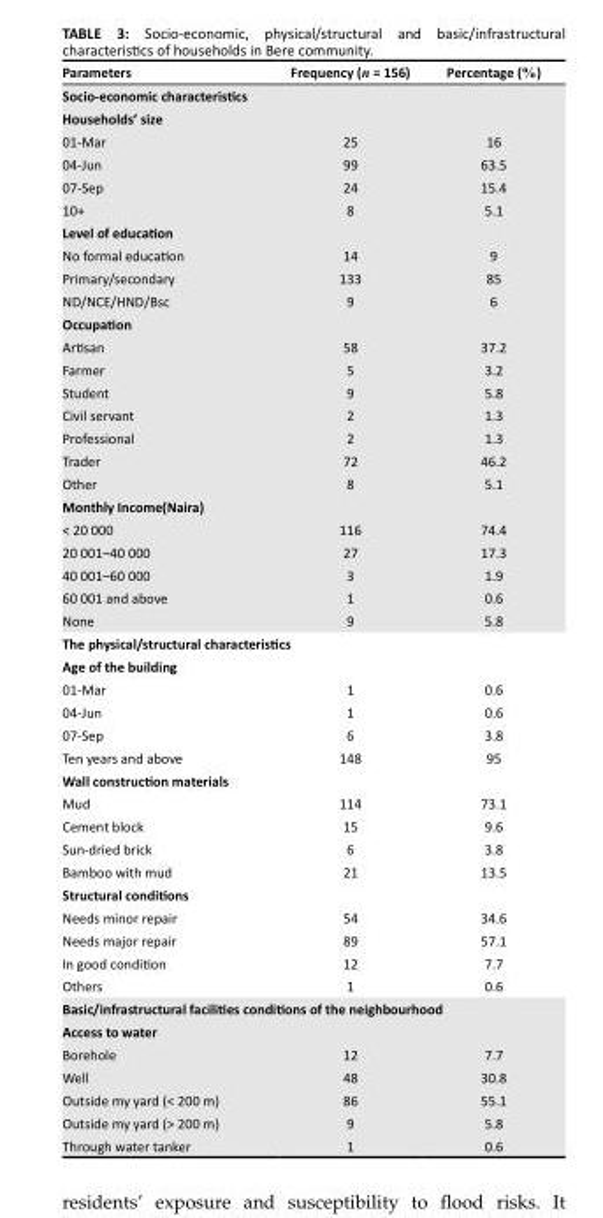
<table><thead><tr><td>Parameters</td><td>Frequency (n = 156)</td><td>Percentage (%)</td></tr></thead><tbody><tr><td colspan="3">Socio-economic characteristics</td></tr><tr><td colspan="3">Households’ size</td></tr><tr><td>01-Mar</td><td>25</td><td>16</td></tr><tr><td>04-Jun</td><td>99</td><td>63.5</td></tr><tr><td>07-Sep</td><td>24</td><td>15.4</td></tr><tr><td>10+</td><td>8</td><td>5.1</td></tr><tr><td colspan="3">Level of education</td></tr><tr><td>No formal education</td><td>14</td><td>9</td></tr><tr><td>Primary/secondary</td><td>133</td><td>85</td></tr><tr><td>ND/NCE/HND/Bsc</td><td>9</td><td>6</td></tr><tr><td colspan="3">Occupation</td></tr><tr><td>Artisan</td><td>58</td><td>37.2</td></tr><tr><td>Farmer</td><td>5</td><td>3.2</td></tr><tr><td>Student</td><td>9</td><td>5.8</td></tr><tr><td>Civil servant</td><td>2</td><td>1.3</td></tr><tr><td>Professional</td><td>2</td><td>1.3</td></tr><tr><td>Trader</td><td>72</td><td>46.2</td></tr><tr><td>Other</td><td>8</td><td>5.1</td></tr><tr><td colspan="3">Monthly Income(Naira)</td></tr><tr><td>&lt; 20 000</td><td>116</td><td>74.4</td></tr><tr><td>20 001–40 000</td><td>27</td><td>17.3</td></tr><tr><td>40 001–60 000</td><td>3</td><td>1.9</td></tr><tr><td>60 001 and above</td><td>1</td><td>0.6</td></tr><tr><td>None</td><td>9</td><td>5.8</td></tr><tr><td colspan="3">The physical/structural characteristics</td></tr><tr><td colspan="3">Age of the building</td></tr><tr><td>01-Mar</td><td>1</td><td>0.6</td></tr><tr><td>04-Jun</td><td>1</td><td>0.6</td></tr><tr><td>07-Sep</td><td>6</td><td>3.8</td></tr><tr><td>Ten years and above</td><td>148</td><td>95</td></tr><tr><td colspan="3">Wall construction materials</td></tr><tr><td>Mud</td><td>114</td><td>73.1</td></tr><tr><td>Cement block</td><td>15</td><td>9.6</td></tr><tr><td>Sun-dried brick</td><td>6</td><td>3.8</td></tr><tr><td>Bamboo with mud</td><td>21</td><td>13.5</td></tr><tr><td colspan="3">Structural conditions</td></tr><tr><td>Needs minor repair</td><td>54</td><td>34.6</td></tr><tr><td>Needs major repair</td><td>89</td><td>57.1</td></tr><tr><td>In good condition</td><td>12</td><td>7.7</td></tr><tr><td>Others</td><td>1</td><td>0.6</td></tr><tr><td colspan="3">Basic/infrastructural facilities conditions of the neighbourhood</td></tr><tr><td colspan="3">Access to water</td></tr><tr><td>Borehole</td><td>12</td><td>7.7</td></tr><tr><td>Well</td><td>48</td><td>30.8</td></tr><tr><td>Outside my yard (&lt; 200 m)</td><td>86</td><td>55.1</td></tr><tr><td>Outside my yard (&gt; 200 m)</td><td>9</td><td>5.8</td></tr><tr><td>Through water tanker</td><td>1</td><td>0.6</td></tr></tbody></table>